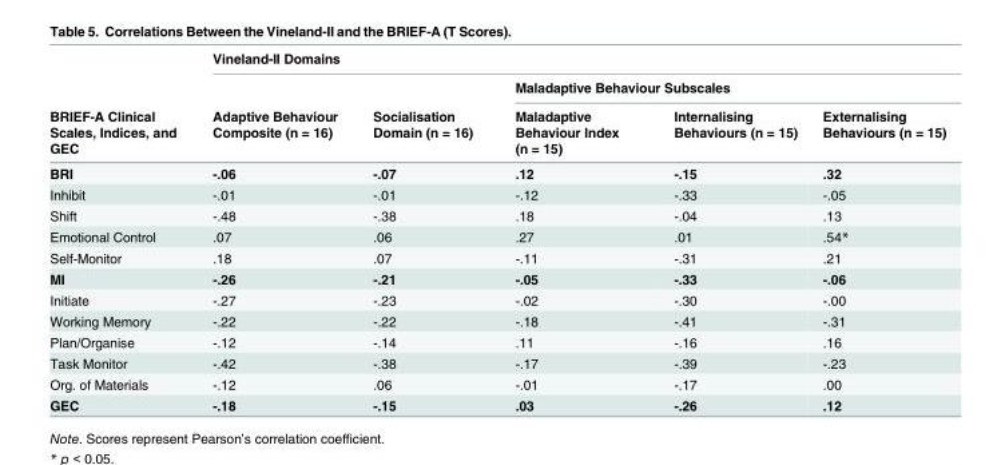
<table><thead><tr><td rowspan="3">BRIEF-A Clinical Scales, Indices, and GEC</td><td colspan="5">Vineland-II Domains</td></tr><tr><td rowspan="2">Adaptive Behaviour Composite (n = 16)</td><td rowspan="2">Socialisation Domain (n = 16)</td><td colspan="3">Maladaptive Behaviour Subscales</td></tr><tr><td>Maladaptive Behaviour Index (n = 15)</td><td>Internalising Behaviours (n = 15)</td><td>Externalising Behaviours (n = 15)</td></tr></thead><tbody><tr><td>BRI</td><td>-.06</td><td>-.07</td><td>.12</td><td>-.15</td><td>.32</td></tr><tr><td>Inhibit</td><td>-.01</td><td>-.01</td><td>-.12</td><td>-.33</td><td>-.05</td></tr><tr><td>Shift</td><td>-.48</td><td>-.38</td><td>.18</td><td>-.04</td><td>.13</td></tr><tr><td>Emotional Control</td><td>.07</td><td>.06</td><td>.27</td><td>.01</td><td>.54*</td></tr><tr><td>Self-Monitor</td><td>.18</td><td>.07</td><td>-.11</td><td>-.31</td><td>.21</td></tr><tr><td>MI</td><td>-.26</td><td>-.21</td><td>-.05</td><td>-.33</td><td>-.06</td></tr><tr><td>Initiate</td><td>-.27</td><td>-.23</td><td>-.02</td><td>-.30</td><td>-.00</td></tr><tr><td>Working Memory</td><td>-.22</td><td>-.22</td><td>-.18</td><td>-.41</td><td>-.31</td></tr><tr><td>Plan/Organise</td><td>-.12</td><td>-.14</td><td>.11</td><td>-.16</td><td>.16</td></tr><tr><td>Task Monitor</td><td>-.42</td><td>-.38</td><td>-.17</td><td>-.39</td><td>-.23</td></tr><tr><td>Org. of Materials</td><td>-.12</td><td>.06</td><td>-.01</td><td>-.17</td><td>.00</td></tr><tr><td>GEC</td><td>-.18</td><td>-.15</td><td>.03</td><td>-.26</td><td>.12</td></tr></tbody></table>